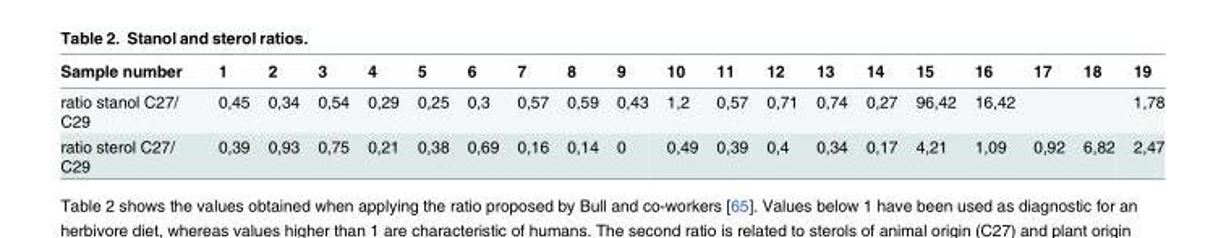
<table><thead><tr><td>Sample number</td><td>1</td><td>2</td><td>3</td><td>4</td><td>5</td><td>6</td><td>7</td><td>8</td><td>9</td><td>10</td><td>11</td><td>12</td><td>13</td><td>14</td><td>15</td><td>16</td><td>17</td><td>18</td><td>19</td></tr></thead><tbody><tr><td>ratio stanol C27/ C29</td><td>0,45</td><td>0,34</td><td>0,54</td><td>0,29</td><td>0,25</td><td>0,3</td><td>0,57</td><td>0,59</td><td>0,43</td><td>1,2</td><td>0,57</td><td>0,71</td><td>0,74</td><td>0,27</td><td>96,42</td><td>16,42</td><td></td><td></td><td>1,78</td></tr><tr><td>ratio sterol C27/ C29</td><td>0,39</td><td>0,93</td><td>0,75</td><td>0,21</td><td>0,38</td><td>0,69</td><td>0,16</td><td>0,14</td><td>0</td><td>0,49</td><td>0,39</td><td>0,4</td><td>0,34</td><td>0,17</td><td>4,21</td><td>1,09</td><td>0,92</td><td>6,82</td><td>2,47</td></tr></tbody></table>